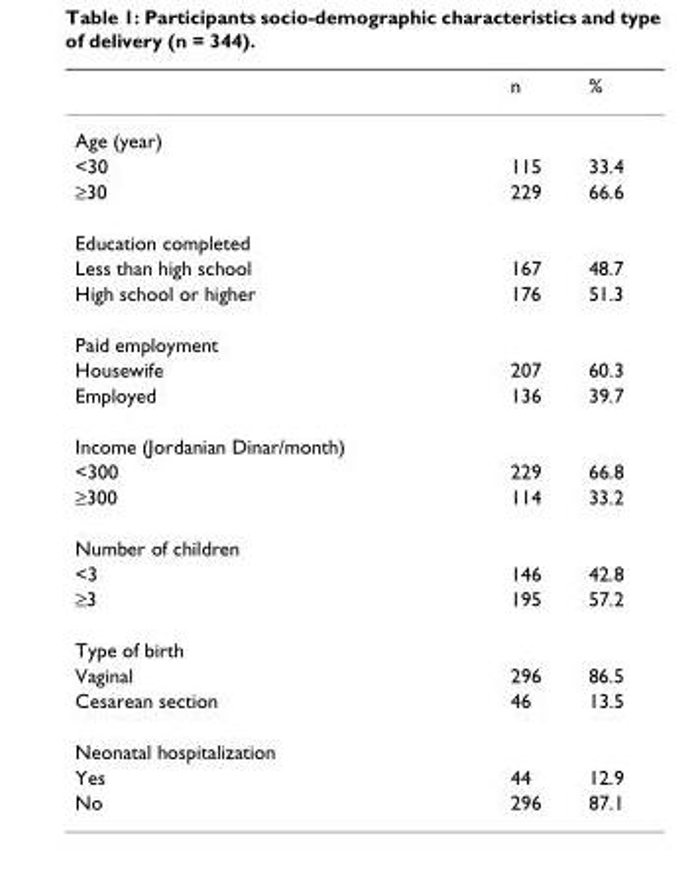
<table><thead><tr><td></td><td>n</td><td>%</td></tr></thead><tbody><tr><td colspan="3">Age (year)</td></tr><tr><td>&lt;30</td><td>115</td><td>33.4</td></tr><tr><td>≥30</td><td>229</td><td>66.6</td></tr><tr><td colspan="3">Education completed</td></tr><tr><td>Less than high school</td><td>167</td><td>48.7</td></tr><tr><td>High school or higher</td><td>176</td><td>51.3</td></tr><tr><td colspan="3">Paid employment</td></tr><tr><td>Housewife</td><td>207</td><td>60.3</td></tr><tr><td>Employed</td><td>136</td><td>39.7</td></tr><tr><td colspan="3">Income (Jordanian Dinar/month)</td></tr><tr><td>&lt;300</td><td>229</td><td>66.8</td></tr><tr><td>≥300</td><td>114</td><td>33.2</td></tr><tr><td colspan="3">Number of children</td></tr><tr><td>&lt;3</td><td>146</td><td>42.8</td></tr><tr><td>≥3</td><td>195</td><td>57.2</td></tr><tr><td colspan="3">Type of birth</td></tr><tr><td>Vaginal</td><td>296</td><td>86.5</td></tr><tr><td>Cesarean section</td><td>46</td><td>13.5</td></tr><tr><td colspan="3">Neonatal hospitalization</td></tr><tr><td>Yes</td><td>44</td><td>12.9</td></tr><tr><td>No</td><td>296</td><td>87.1</td></tr></tbody></table>